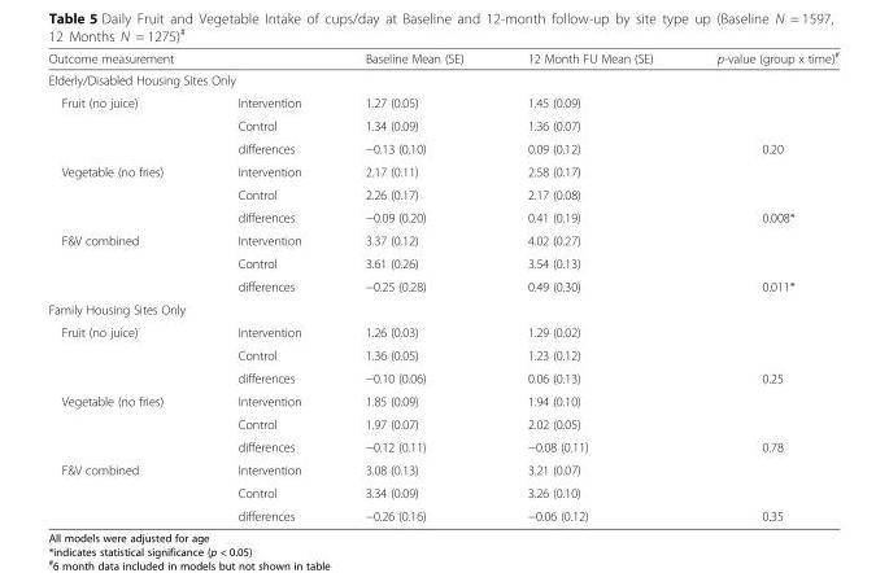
<table><thead><tr><td>Outcome measurement</td><td></td><td>Baseline Mean (SE)</td><td>12 Month FU Mean (SE)</td><td>p-value (group x time)<sup>#</sup></td></tr></thead><tbody><tr><td colspan="5">Elderly/Disabled Housing Sites Only</td></tr><tr><td rowspan="3">Fruit (no juice)</td><td>Intervention</td><td>1.27 (0.05)</td><td>1.45 (0.09)</td><td></td></tr><tr><td>Control</td><td>1.34 (0.09)</td><td>1.36 (0.07)</td><td></td></tr><tr><td>differences</td><td>−0.13 (0.10)</td><td>0.09 (0.12)</td><td>0.20</td></tr><tr><td rowspan="3">Vegetable (no fries)</td><td>Intervention</td><td>2.17 (0.11)</td><td>2.58 (0.17)</td><td></td></tr><tr><td>Control</td><td>2.26 (0.17)</td><td>2.17 (0.08)</td><td></td></tr><tr><td>differences</td><td>−0.09 (0.20)</td><td>0.41 (0.19)</td><td>0.008*</td></tr><tr><td rowspan="3">F&amp;V combined</td><td>Intervention</td><td>3.37 (0.12)</td><td>4.02 (0.27)</td><td></td></tr><tr><td>Control</td><td>3.61 (0.26)</td><td>3.54 (0.13)</td><td></td></tr><tr><td>differences</td><td>−0.25 (0.28)</td><td>0.49 (0.30)</td><td>0.011*</td></tr><tr><td colspan="5">Family Housing Sites Only</td></tr><tr><td rowspan="3">Fruit (no juice)</td><td>Intervention</td><td>1.26 (0.03)</td><td>1.29 (0.02)</td><td></td></tr><tr><td>Control</td><td>1.36 (0.05)</td><td>1.23 (0.12)</td><td></td></tr><tr><td>differences</td><td>−0.10 (0.06)</td><td>0.06 (0.13)</td><td>0.25</td></tr><tr><td rowspan="3">Vegetable (no fries)</td><td>Intervention</td><td>1.85 (0.09)</td><td>1.94 (0.10)</td><td></td></tr><tr><td>Control</td><td>1.97 (0.07)</td><td>2.02 (0.05)</td><td></td></tr><tr><td>differences</td><td>−0.12 (0.11)</td><td>−0.08 (0.11)</td><td>0.78</td></tr><tr><td rowspan="3">F&amp;V combined</td><td>Intervention</td><td>3.08 (0.13)</td><td>3.21 (0.07)</td><td></td></tr><tr><td>Control</td><td>3.34 (0.09)</td><td>3.26 (0.10)</td><td></td></tr><tr><td>differences</td><td>−0.26 (0.16)</td><td>−0.06 (0.12)</td><td>0.35</td></tr></tbody></table>